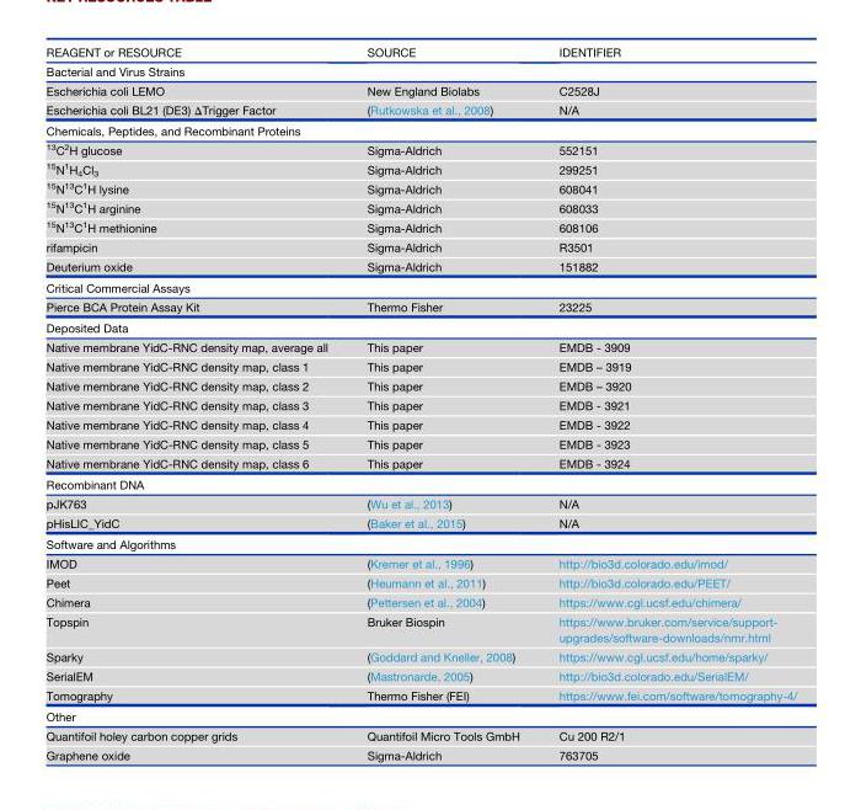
<table><thead><tr><td>REAGENT or RESOURCE</td><td>SOURCE</td><td>IDENTIFIER</td></tr></thead><tbody><tr><td colspan="3">Bacterial and Virus Strains</td></tr><tr><td>Escherichia coli LEMO</td><td>New England Biolabs</td><td>C2528J</td></tr><tr><td>Escherichia coli BL21 (DE3) ΔTrigger Factor</td><td>(Rutkowska et al., 2008)</td><td>N/A</td></tr><tr><td colspan="3">Chemicals, Peptides, and Recombinant Proteins</td></tr><tr><td><sup>13</sup>C<sup>2</sup>H glucose</td><td>Sigma-Aldrich</td><td>552151</td></tr><tr><td><sup>15</sup>N<sup>1</sup>H<sub>4</sub>Cl<sub>3</sub></td><td>Sigma-Aldrich</td><td>299251</td></tr><tr><td><sup>15</sup>N<sup>13</sup>C<sup>1</sup>H lysine</td><td>Sigma-Aldrich</td><td>608041</td></tr><tr><td><sup>15</sup>N<sup>13</sup>C<sup>1</sup>H arginine</td><td>Sigma-Aldrich</td><td>608033</td></tr><tr><td><sup>15</sup>N<sup>13</sup>C<sup>1</sup>H methionine</td><td>Sigma-Aldrich</td><td>608106</td></tr><tr><td>rifampicin</td><td>Sigma-Aldrich</td><td>R3501</td></tr><tr><td>Deuterium oxide</td><td>Sigma-Aldrich</td><td>151882</td></tr><tr><td colspan="3">Critical Commercial Assays</td></tr><tr><td>Pierce BCA Protein Assay Kit</td><td>Thermo Fisher</td><td>23225</td></tr><tr><td colspan="3">Deposited Data</td></tr><tr><td>Native membrane YidC-RNC density map, average all</td><td>This paper</td><td>EMDB - 3909</td></tr><tr><td>Native membrane YidC-RNC density map, class 1</td><td>This paper</td><td>EMDB – 3919</td></tr><tr><td>Native membrane YidC-RNC density map, class 2</td><td>This paper</td><td>EMDB – 3920</td></tr><tr><td>Native membrane YidC-RNC density map, class 3</td><td>This paper</td><td>EMDB - 3921</td></tr><tr><td>Native membrane YidC-RNC density map, class 4</td><td>This paper</td><td>EMDB - 3922</td></tr><tr><td>Native membrane YidC-RNC density map, class 5</td><td>This paper</td><td>EMDB - 3923</td></tr><tr><td>Native membrane YidC-RNC density map, class 6</td><td>This paper</td><td>EMDB - 3924</td></tr><tr><td colspan="3">Recombinant DNA</td></tr><tr><td>pJK763</td><td>(Wu et al., 2013)</td><td>N/A</td></tr><tr><td>pHisLIC_YidC</td><td>(Baker et al., 2015)</td><td>N/A</td></tr><tr><td colspan="3">Software and Algorithms</td></tr><tr><td>IMOD</td><td>(Kremer et al., 1996)</td><td>http://bio3d.colorado.edu/imod/</td></tr><tr><td>Peet</td><td>(Heumann et al., 2011)</td><td>http://bio3d.colorado.edu/PEET/</td></tr><tr><td>Chimera</td><td>(Pettersen et al., 2004)</td><td>https://www.cgl.ucsf.edu/chimera/</td></tr><tr><td>Topspin</td><td>Bruker Biospin</td><td>https://www.bruker.com/service/support- upgrades/software-downloads/nmr.html</td></tr><tr><td>Sparky</td><td>(Goddard and Kneller, 2008)</td><td>https://www.cgl.ucsf.edu/home/sparky/</td></tr><tr><td>SerialEM</td><td>(Mastronarde, 2005)</td><td>http://bio3d.colorado.edu/SerialEM/</td></tr><tr><td>Tomography</td><td>Thermo Fisher (FEI)</td><td>https://www.fei.com/software/tomography-4/</td></tr><tr><td colspan="3">Other</td></tr><tr><td>Quantifoil holey carbon copper grids</td><td>Quantifoil Micro Tools GmbH</td><td>Cu 200 R2/1</td></tr><tr><td>Graphene oxide</td><td>Sigma-Aldrich</td><td>763705</td></tr></tbody></table>